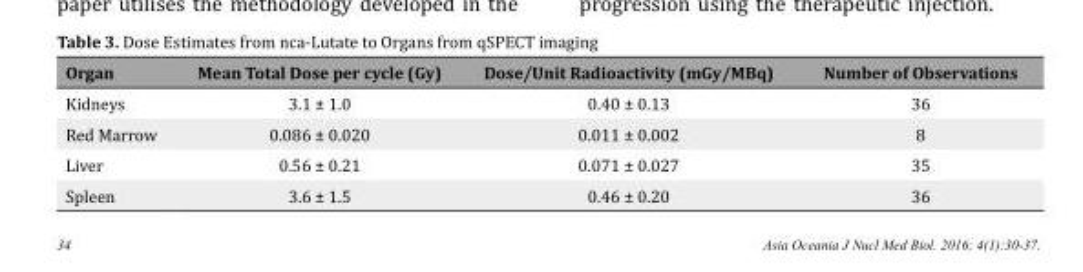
<table><thead><tr><td>Organ</td><td>Mean Total Dose per cycle (Gy)</td><td>Dose/Unit Radioactivity (mGy/MBq)</td><td>Number of Observations</td></tr></thead><tbody><tr><td>Kidneys</td><td>3.1 ± 1.0</td><td>0.40 ± 0.13</td><td>36</td></tr><tr><td>Red Marrow</td><td>0.086 ± 0.020</td><td>0.011 ± 0.002</td><td>8</td></tr><tr><td>Liver</td><td>0.56 ± 0.21</td><td>0.071 ± 0.027</td><td>35</td></tr><tr><td>Spleen</td><td>3.6 ± 1.5</td><td>0.46 ± 0.20</td><td>36</td></tr></tbody></table>